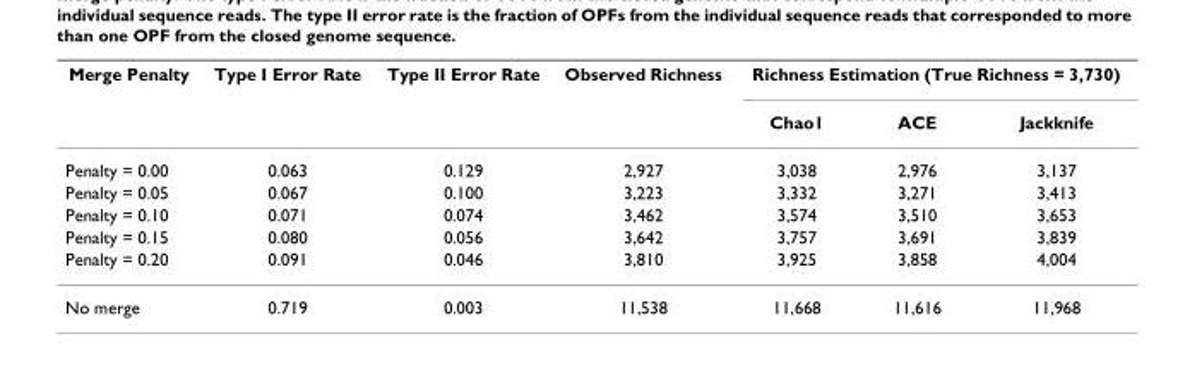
<table><thead><tr><td rowspan="2">Merge Penalty</td><td rowspan="2">Type I Error Rate</td><td rowspan="2">Type II Error Rate</td><td rowspan="2">Observed Richness</td><td colspan="3">Richness Estimation (True Richness = 3,730)</td></tr><tr><td>Chao1</td><td>ACE</td><td>Jackknife</td></tr></thead><tbody><tr><td>Penalty = 0.00</td><td>0.063</td><td>0.129</td><td>2,927</td><td>3,038</td><td>2,976</td><td>3,137</td></tr><tr><td>Penalty = 0.05</td><td>0.067</td><td>0.100</td><td>3,223</td><td>3,332</td><td>3,271</td><td>3,413</td></tr><tr><td>Penalty = 0.10</td><td>0.071</td><td>0.074</td><td>3,462</td><td>3,574</td><td>3,510</td><td>3,653</td></tr><tr><td>Penalty = 0.15</td><td>0.080</td><td>0.056</td><td>3,642</td><td>3,757</td><td>3,691</td><td>3,839</td></tr><tr><td>Penalty = 0.20</td><td>0.091</td><td>0.046</td><td>3,810</td><td>3,925</td><td>3,858</td><td>4,004</td></tr><tr><td>No merge</td><td>0.719</td><td>0.003</td><td>11,538</td><td>11,668</td><td>11,616</td><td>11,968</td></tr></tbody></table>